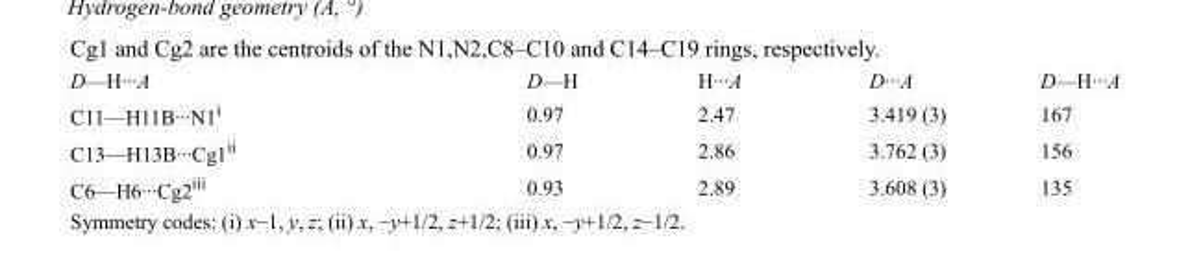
<table><tbody><tr><td>D—H···A</td><td>D—H</td><td>H···A</td><td>D···A</td><td>D—H···A</td></tr><tr><td>C11—H11B···N1<sup>i</sup></td><td>0.97</td><td>2.47</td><td>3.419 (3)</td><td>167</td></tr><tr><td>C13—H13B···Cg1<sup>ii</sup></td><td>0.97</td><td>2.86</td><td>3.762 (3)</td><td>156</td></tr><tr><td>C6—H6···Cg2<sup>iii</sup></td><td>0.93</td><td>2.89</td><td>3.608 (3)</td><td>135</td></tr></tbody></table>